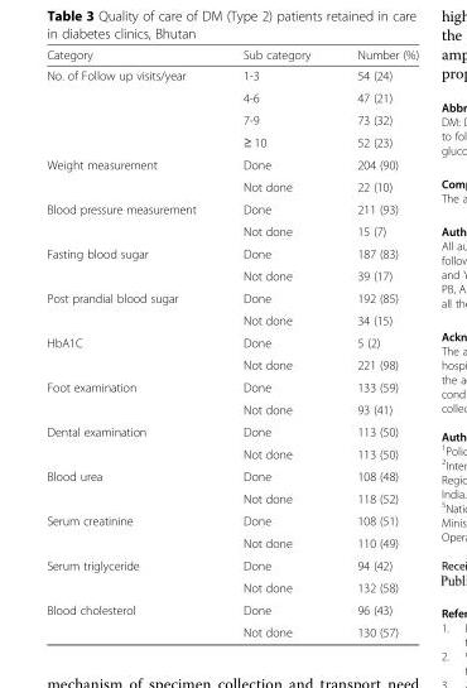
<table><thead><tr><td>Category</td><td>Sub category</td><td>Number (%)</td></tr></thead><tbody><tr><td rowspan="4">No. of Follow up visits/year</td><td>1-3</td><td>54 (24)</td></tr><tr><td>4-6</td><td>47 (21)</td></tr><tr><td>7-9</td><td>73 (32)</td></tr><tr><td>≥ 10</td><td>52 (23)</td></tr><tr><td rowspan="2">Weight measurement</td><td>Done</td><td>204 (90)</td></tr><tr><td>Not done</td><td>22 (10)</td></tr><tr><td rowspan="2">Blood pressure measurement</td><td>Done</td><td>211 (93)</td></tr><tr><td>Not done</td><td>15 (7)</td></tr><tr><td rowspan="2">Fasting blood sugar</td><td>Done</td><td>187 (83)</td></tr><tr><td>Not done</td><td>39 (17)</td></tr><tr><td rowspan="2">Post prandial blood sugar</td><td>Done</td><td>192 (85)</td></tr><tr><td>Not done</td><td>34 (15)</td></tr><tr><td rowspan="2">HbA1C</td><td>Done</td><td>5 (2)</td></tr><tr><td>Not done</td><td>221 (98)</td></tr><tr><td rowspan="2">Foot examination</td><td>Done</td><td>133 (59)</td></tr><tr><td>Not done</td><td>93 (41)</td></tr><tr><td rowspan="2">Dental examination</td><td>Done</td><td>113 (50)</td></tr><tr><td>Not done</td><td>113 (50)</td></tr><tr><td rowspan="2">Blood urea</td><td>Done</td><td>108 (48)</td></tr><tr><td>Not done</td><td>118 (52)</td></tr><tr><td rowspan="2">Serum creatinine</td><td>Done</td><td>108 (51)</td></tr><tr><td>Not done</td><td>110 (49)</td></tr><tr><td rowspan="2">Serum triglyceride</td><td>Done</td><td>94 (42)</td></tr><tr><td>Not done</td><td>132 (58)</td></tr><tr><td rowspan="2">Blood cholesterol</td><td>Done</td><td>96 (43)</td></tr><tr><td>Not done</td><td>130 (57)</td></tr></tbody></table>